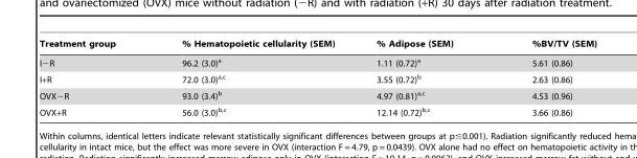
<table><thead><tr><td>Treatment group</td><td>% Hematopoietic cellularity (SEM)</td><td>% Adipose (SEM)</td><td>%BV/TV (SEM)</td></tr></thead><tbody><tr><td>I−R</td><td>96.2 (3.0)<sup>a</sup></td><td>1.11 (0.72)<sup>a</sup></td><td>5.61 (0.86)</td></tr><tr><td>I+R</td><td>72.0 (3.0)<sup>a,c</sup></td><td>3.55 (0.72)<sup>b</sup></td><td>2.63 (0.86)</td></tr><tr><td>OVX−R</td><td>93.0 (3.4)<sup>b</sup></td><td>4.97 (0.81)<sup>a,c</sup></td><td>4.53 (0.96)</td></tr><tr><td>OVX+R</td><td>56.0 (3.0)<sup>b,c</sup></td><td>12.14 (0.72)<sup>b,c</sup></td><td>3.66 (0.86)</td></tr></tbody></table>